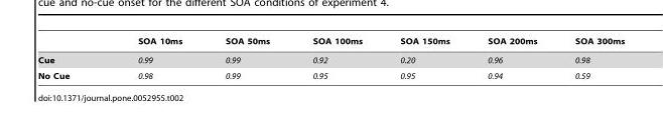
<table><thead><tr><td></td><td>SOA 10ms</td><td>SOA 50ms</td><td>SOA 100ms</td><td>SOA 150ms</td><td>SOA 200ms</td><td>SOA 300ms</td></tr></thead><tbody><tr><td>Cue</td><td>0.99</td><td>0.99</td><td>0.92</td><td>0.20</td><td>0.96</td><td>0.98</td></tr><tr><td>No Cue</td><td>0.98</td><td>0.99</td><td>0.95</td><td>0.95</td><td>0.94</td><td>0.59</td></tr></tbody></table>